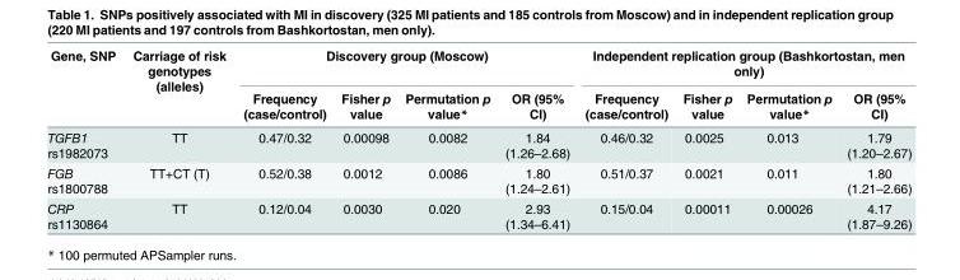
<table><thead><tr><td rowspan="2">Gene, SNP</td><td rowspan="2">Carriage of risk genotypes (alleles)</td><td colspan="4">Discovery group (Moscow)</td><td colspan="4">Independent replication group (Bashkortostan, men only)</td></tr><tr><td>Frequency (case/control)</td><td>Fisher p value</td><td>Permutation p value*</td><td>OR (95% CI)</td><td>Frequency (case/control)</td><td>Fisher p value</td><td>Permutation p value*</td><td>OR (95% CI)</td></tr></thead><tbody><tr><td>TGFB1 rs1982073</td><td>TT</td><td>0.47/0.32</td><td>0.00098</td><td>0.0082</td><td>1.84 (1.26–2.68)</td><td>0.46/0.32</td><td>0.0025</td><td>0.013</td><td>1.79 (1.20–2.67)</td></tr><tr><td>FGB rs1800788</td><td>TT+CT (T)</td><td>0.52/0.38</td><td>0.0012</td><td>0.0086</td><td>1.80 (1.24–2.61)</td><td>0.51/0.37</td><td>0.0021</td><td>0.011</td><td>1.80 (1.21–2.66)</td></tr><tr><td>CRP rs1130864</td><td>TT</td><td>0.12/0.04</td><td>0.0030</td><td>0.020</td><td>2.93 (1.34–6.41)</td><td>0.15/0.04</td><td>0.00011</td><td>0.00026</td><td>4.17 (1.87–9.26)</td></tr></tbody></table>